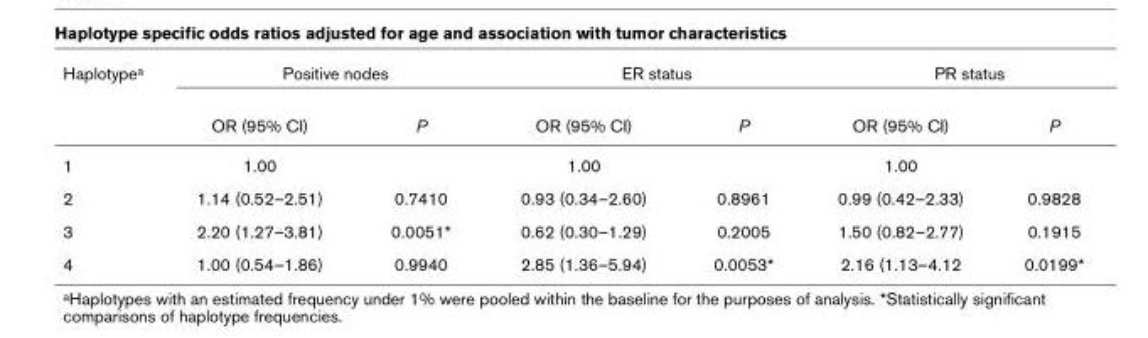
<table><thead><tr><td rowspan="2">Haplotypea</td><td colspan="2">Positive nodes</td><td colspan="2">ER status</td><td colspan="2">PR status</td></tr><tr><td>OR (95% CI)</td><td>P</td><td>OR (95% CI)</td><td>P</td><td>OR (95% CI)</td><td>P</td></tr></thead><tbody><tr><td>1</td><td>1.00</td><td></td><td>1.00</td><td></td><td>1.00</td><td></td></tr><tr><td>2</td><td>1.14 (0.52–2.51)</td><td>0.7410</td><td>0.93 (0.34–2.60)</td><td>0.8961</td><td>0.99 (0.42–2.33)</td><td>0.9828</td></tr><tr><td>3</td><td>2.20 (1.27–3.81)</td><td>0.0051*</td><td>0.62 (0.30–1.29)</td><td>0.2005</td><td>1.50 (0.82–2.77)</td><td>0.1915</td></tr><tr><td>4</td><td>1.00 (0.54–1.86)</td><td>0.9940</td><td>2.85 (1.36–5.94)</td><td>0.0053*</td><td>2.16 (1.13–4.12</td><td>0.0199*</td></tr></tbody></table>